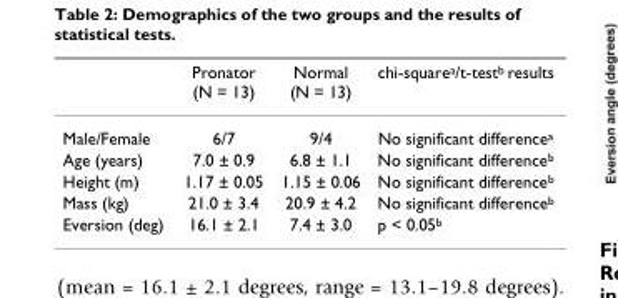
<table><thead><tr><td></td><td>Pronator (N = 13)</td><td>Normal (N = 13)</td><td>chi-square<sup>a</sup>/t-test<sup>b</sup> results</td></tr></thead><tbody><tr><td>Male/Female</td><td>6/7</td><td>9/4</td><td>No significant difference<sup>a</sup></td></tr><tr><td>Age (years)</td><td>7.0 ± 0.9</td><td>6.8 ± 1.1</td><td>No significant difference<sup>b</sup></td></tr><tr><td>Height (m)</td><td>1.17 ± 0.05</td><td>1.15 ± 0.06</td><td>No significant difference<sup>b</sup></td></tr><tr><td>Mass (kg)</td><td>21.0 ± 3.4</td><td>20.9 ± 4.2</td><td>No significant difference<sup>b</sup></td></tr><tr><td>Eversion (deg)</td><td>16.1 ± 2.1</td><td>7.4 ± 3.0</td><td>p &lt; 0.05<sup>b</sup></td></tr></tbody></table>